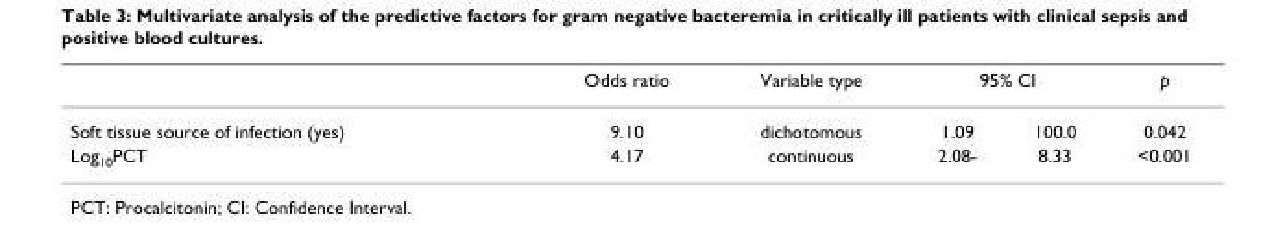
<table><thead><tr><td rowspan="2">Soft tissue source of infection (yes)</td><td rowspan="2">Odds ratio 9.10</td><td rowspan="2">Variable type dichotomous</td><td colspan="2">95% CI</td><td rowspan="2">p 0.042</td></tr><tr><td>1.09</td><td>100.0</td></tr></thead><tbody><tr><td>Log<sub>10</sub>PCT</td><td>4.17</td><td>continuous</td><td>2.08-</td><td>8.33</td><td>&lt;0.001</td></tr></tbody></table>